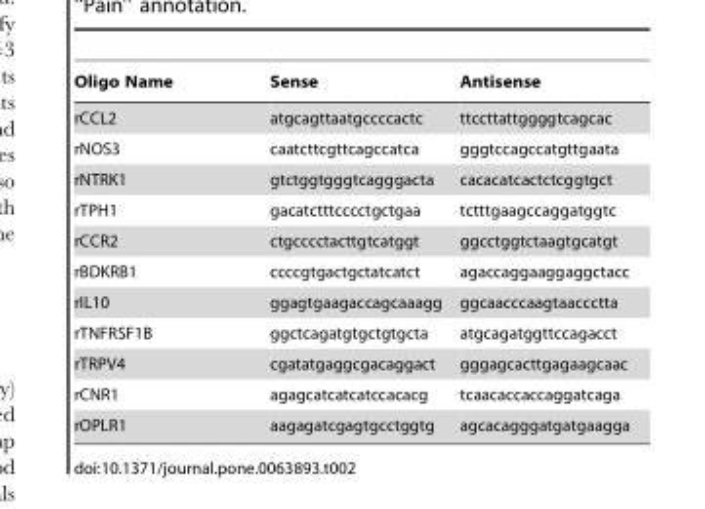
<table><thead><tr><td>Oligo Name</td><td>Sense</td><td>Antisense</td></tr></thead><tbody><tr><td>rCCL2</td><td>atgcagttaatgccccactc</td><td>ttccttattggggtcagcac</td></tr><tr><td>rNOS3</td><td>caatcttcgttcagccatca</td><td>gggtccagccatgttgaata</td></tr><tr><td>rNTRK1</td><td>gtctggtgggtcagggacta</td><td>cacacatcactctcggtgct</td></tr><tr><td>rTPH1</td><td>gacatctttcccctgctgaa</td><td>tctttgaagccaggatggtc</td></tr><tr><td>rCCR2</td><td>ctgcccctacttgtcatggt</td><td>ggcctggtctaagtgcatgt</td></tr><tr><td>rBDKRB1</td><td>ccccgtgactgctatcatct</td><td>agaccaggaaggaggctacc</td></tr><tr><td>rIL10</td><td>ggagtgaagaccagcaaagg</td><td>ggcaacccaagtaaccctta</td></tr><tr><td>rTNFRSF1B</td><td>ggctcagatgtgctgtgcta</td><td>atgcagatggttccagacct</td></tr><tr><td>rTRPV4</td><td>cgatatgaggcgacaggact</td><td>gggagcacttgagaagcaac</td></tr><tr><td>rCNR1</td><td>agagcatcatcatccacacg</td><td>tcaacaccaccaggatcaga</td></tr><tr><td>rOPLR1</td><td>aagagatcgagtgcctggtg</td><td>agcacagggatgatgaagga</td></tr></tbody></table>